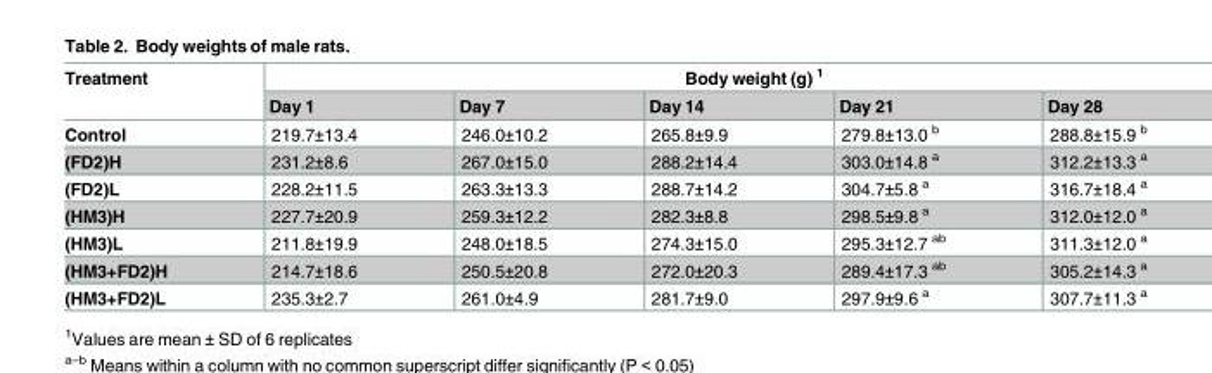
<table><thead><tr><td rowspan="2">Treatment</td><td colspan="5">Body weight (g) <sup>1</sup></td></tr><tr><td>Day 1</td><td>Day 7</td><td>Day 14</td><td>Day 21</td><td>Day 28</td></tr></thead><tbody><tr><td>Control</td><td>219.7±13.4</td><td>246.0±10.2</td><td>265.8±9.9</td><td>279.8±13.0 <sup>b</sup></td><td>288.8±15.9 <sup>b</sup></td></tr><tr><td>(FD2)H</td><td>231.2±8.6</td><td>267.0±15.0</td><td>288.2±14.4</td><td>303.0±14.8 <sup>a</sup></td><td>312.2±13.3 <sup>a</sup></td></tr><tr><td>(FD2)L</td><td>228.2±11.5</td><td>263.3±13.3</td><td>288.7±14.2</td><td>304.7±5.8 <sup>a</sup></td><td>316.7±18.4 <sup>a</sup></td></tr><tr><td>(HM3)H</td><td>227.7±20.9</td><td>259.3±12.2</td><td>282.3±8.8</td><td>298.5±9.8 <sup>a</sup></td><td>312.0±12.0 <sup>a</sup></td></tr><tr><td>(HM3)L</td><td>211.8±19.9</td><td>248.0±18.5</td><td>274.3±15.0</td><td>295.3±12.7 <sup>ab</sup></td><td>311.3±12.0 <sup>a</sup></td></tr><tr><td>(HM3+FD2)H</td><td>214.7±18.6</td><td>250.5±20.8</td><td>272.0±20.3</td><td>289.4±17.3 <sup>ab</sup></td><td>305.2±14.3 <sup>a</sup></td></tr><tr><td>(HM3+FD2)L</td><td>235.3±2.7</td><td>261.0±4.9</td><td>281.7±9.0</td><td>297.9±9.6 <sup>a</sup></td><td>307.7±11.3 <sup>a</sup></td></tr></tbody></table>